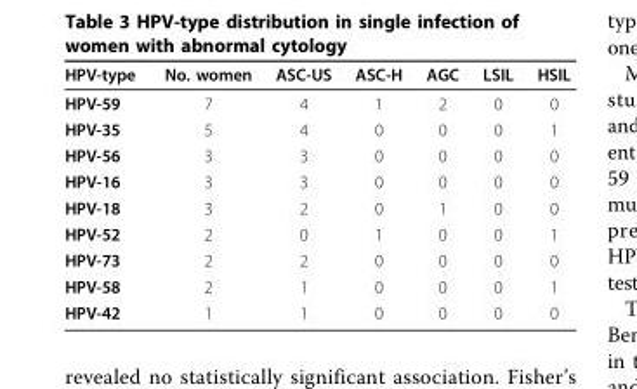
<table><thead><tr><td>HPV-type</td><td>No. women</td><td>ASC-US</td><td>ASC-H</td><td>AGC</td><td>LSIL</td><td>HSIL</td></tr></thead><tbody><tr><td>HPV-59</td><td>7</td><td>4</td><td>1</td><td>2</td><td>0</td><td>0</td></tr><tr><td>HPV-35</td><td>5</td><td>4</td><td>0</td><td>0</td><td>0</td><td>1</td></tr><tr><td>HPV-56</td><td>3</td><td>3</td><td>0</td><td>0</td><td>0</td><td>0</td></tr><tr><td>HPV-16</td><td>3</td><td>3</td><td>0</td><td>0</td><td>0</td><td>0</td></tr><tr><td>HPV-18</td><td>3</td><td>2</td><td>0</td><td>1</td><td>0</td><td>0</td></tr><tr><td>HPV-52</td><td>2</td><td>0</td><td>1</td><td>0</td><td>0</td><td>1</td></tr><tr><td>HPV-73</td><td>2</td><td>2</td><td>0</td><td>0</td><td>0</td><td>0</td></tr><tr><td>HPV-58</td><td>2</td><td>1</td><td>0</td><td>0</td><td>0</td><td>1</td></tr><tr><td>HPV-42</td><td>1</td><td>1</td><td>0</td><td>0</td><td>0</td><td>0</td></tr></tbody></table>